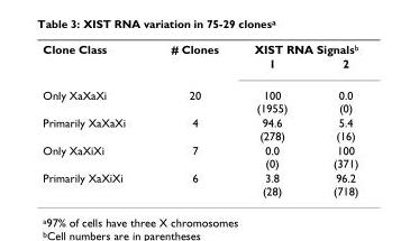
<table><tbody><tr><td rowspan="2">Clone Class</td><td># Clones</td><td colspan="2">XIST RNA Signals<sup>b</sup></td></tr><tr><td></td><td>1</td><td>2</td></tr><tr><td>Only XaXaXi</td><td>20</td><td>100 (1955)</td><td>0.0 (0)</td></tr><tr><td>Primarily XaXaXi</td><td>4</td><td>94.6 (278)</td><td>5.4 (16)</td></tr><tr><td>Only XaXiXi</td><td>7</td><td>0.0 (0)</td><td>100 (371)</td></tr><tr><td>Primarily XaXiXi</td><td>6</td><td>3.8 (28)</td><td>96.2 (718)</td></tr></tbody></table>